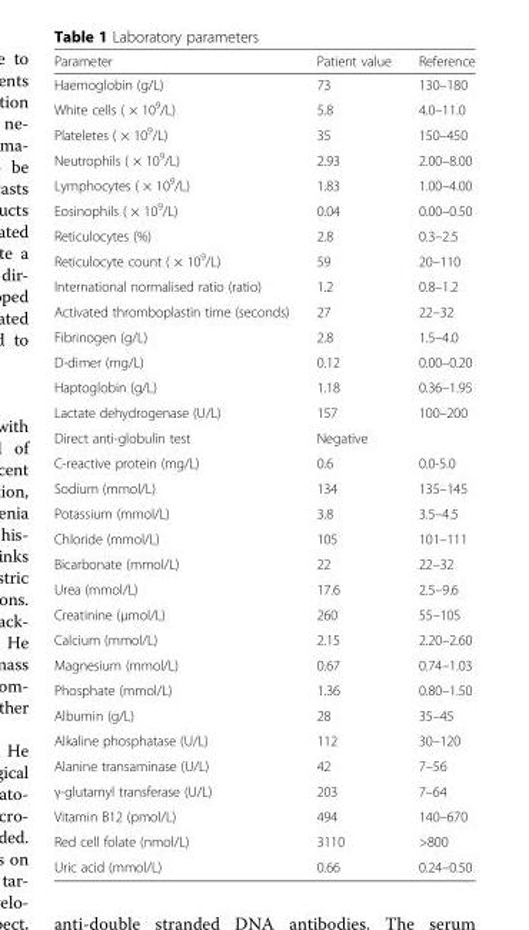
<table><thead><tr><td>Parameter</td><td>Patient value</td><td>Reference</td></tr></thead><tbody><tr><td>Haemoglobin (g/L)</td><td>73</td><td>130–180</td></tr><tr><td>White cells ( × 10<sup>9</sup>/L)</td><td>5.8</td><td>4.0–11.0</td></tr><tr><td>Plateletes ( × 10<sup>9</sup>/L)</td><td>35</td><td>150–450</td></tr><tr><td>Neutrophils ( × 10<sup>9</sup>/L)</td><td>2.93</td><td>2.00–8.00</td></tr><tr><td>Lymphocytes ( × 10<sup>9</sup>/L)</td><td>1.83</td><td>1.00–4.00</td></tr><tr><td>Eosinophils ( × 10<sup>9</sup>/L)</td><td>0.04</td><td>0.00–0.50</td></tr><tr><td>Reticulocytes (%)</td><td>2.8</td><td>0.3–2.5</td></tr><tr><td>Reticulocyte count ( × 10<sup>9</sup>/L)</td><td>59</td><td>20–110</td></tr><tr><td>International normalised ratio (ratio)</td><td>1.2</td><td>0.8–1.2</td></tr><tr><td>Activated thromboplastin time (seconds)</td><td>27</td><td>22–32</td></tr><tr><td>Fibrinogen (g/L)</td><td>2.8</td><td>1.5–4.0</td></tr><tr><td>D-dimer (mg/L)</td><td>0.12</td><td>0.00–0.20</td></tr><tr><td>Haptoglobin (g/L)</td><td>1.18</td><td>0.36–1.95</td></tr><tr><td>Lactate dehydrogenase (U/L)</td><td>157</td><td>100–200</td></tr><tr><td>Direct anti-globulin test</td><td>Negative</td><td></td></tr><tr><td>C-reactive protein (mg/L)</td><td>0.6</td><td>0.0-5.0</td></tr><tr><td>Sodium (mmol/L)</td><td>134</td><td>135–145</td></tr><tr><td>Potassium (mmol/L)</td><td>3.8</td><td>3.5–4.5</td></tr><tr><td>Chloride (mmol/L)</td><td>105</td><td>101–111</td></tr><tr><td>Bicarbonate (mmol/L)</td><td>22</td><td>22–32</td></tr><tr><td>Urea (mmol/L)</td><td>17.6</td><td>2.5–9.6</td></tr><tr><td>Creatinine (μmol/L)</td><td>260</td><td>55–105</td></tr><tr><td>Calcium (mmol/L)</td><td>2.15</td><td>2.20–2.60</td></tr><tr><td>Magnesium (mmol/L)</td><td>0.67</td><td>0.74–1.03</td></tr><tr><td>Phosphate (mmol/L)</td><td>1.36</td><td>0.80–1.50</td></tr><tr><td>Albumin (g/L)</td><td>28</td><td>35–45</td></tr><tr><td>Alkaline phosphatase (U/L)</td><td>112</td><td>30–120</td></tr><tr><td>Alanine transaminase (U/L)</td><td>42</td><td>7–56</td></tr><tr><td>γ-glutamyl transferase (U/L)</td><td>203</td><td>7–64</td></tr><tr><td>Vitamin B12 (pmol/L)</td><td>494</td><td>140–670</td></tr><tr><td>Red cell folate (nmol/L)</td><td>3110</td><td>&gt;800</td></tr><tr><td>Uric acid (mmol/L)</td><td>0.66</td><td>0.24–0.50</td></tr></tbody></table>